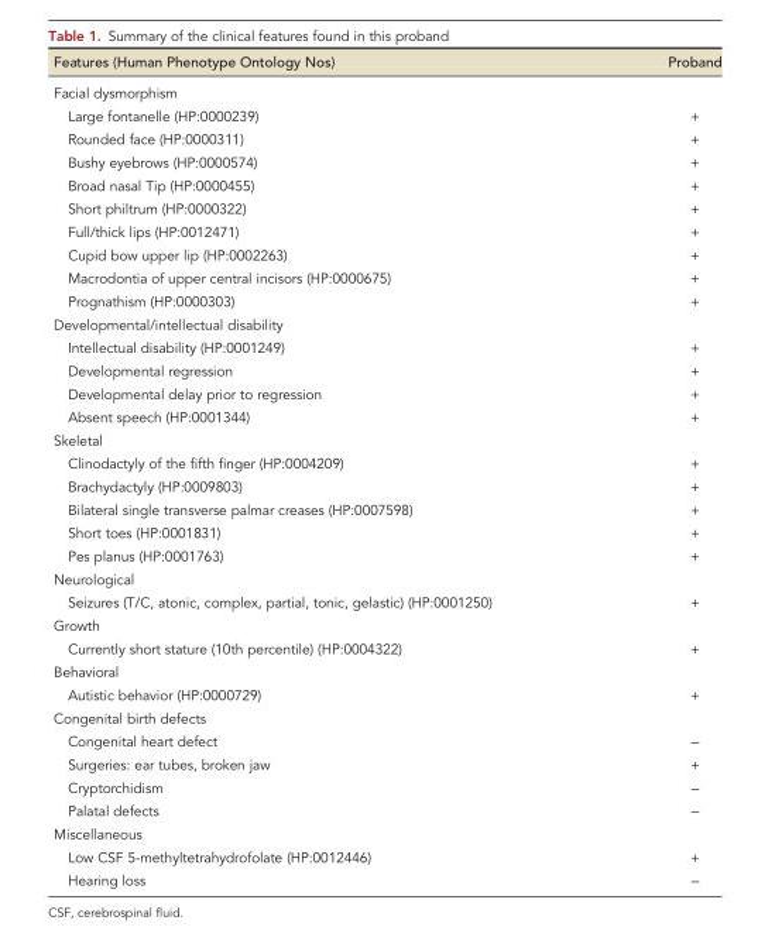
<table><thead><tr><td>Features (Human Phenotype Ontology Nos)</td><td>Proband</td></tr></thead><tbody><tr><td colspan="2">Facial dysmorphism</td></tr><tr><td>Large fontanelle (HP:0000239)</td><td>+</td></tr><tr><td>Rounded face (HP:0000311)</td><td>+</td></tr><tr><td>Bushy eyebrows (HP:0000574)</td><td>+</td></tr><tr><td>Broad nasal Tip (HP:0000455)</td><td>+</td></tr><tr><td>Short philtrum (HP:0000322)</td><td>+</td></tr><tr><td>Full/thick lips (HP:0012471)</td><td>+</td></tr><tr><td>Cupid bow upper lip (HP:0002263)</td><td>+</td></tr><tr><td>Macrodontia of upper central incisors (HP:0000675)</td><td>+</td></tr><tr><td>Prognathism (HP:0000303)</td><td>+</td></tr><tr><td colspan="2">Developmental/intellectual disability</td></tr><tr><td>Intellectual disability (HP:0001249)</td><td>+</td></tr><tr><td>Developmental regression</td><td>+</td></tr><tr><td>Developmental delay prior to regression</td><td>+</td></tr><tr><td>Absent speech (HP:0001344)</td><td>+</td></tr><tr><td colspan="2">Skeletal</td></tr><tr><td>Clinodactyly of the fifth finger (HP:0004209)</td><td>+</td></tr><tr><td>Brachydactyly (HP:0009803)</td><td>+</td></tr><tr><td>Bilateral single transverse palmar creases (HP:0007598)</td><td>+</td></tr><tr><td>Short toes (HP:0001831)</td><td>+</td></tr><tr><td>Pes planus (HP:0001763)</td><td>+</td></tr><tr><td colspan="2">Neurological</td></tr><tr><td>Seizures (T/C, atonic, complex, partial, tonic, gelastic) (HP:0001250)</td><td>+</td></tr><tr><td colspan="2">Growth</td></tr><tr><td>Currently short stature (10th percentile) (HP:0004322)</td><td>+</td></tr><tr><td colspan="2">Behavioral</td></tr><tr><td>Autistic behavior (HP:0000729)</td><td>+</td></tr><tr><td colspan="2">Congenital birth defects</td></tr><tr><td>Congenital heart defect</td><td>−</td></tr><tr><td>Surgeries: ear tubes, broken jaw</td><td>+</td></tr><tr><td>Cryptorchidism</td><td>−</td></tr><tr><td>Palatal defects</td><td>−</td></tr><tr><td colspan="2">Miscellaneous</td></tr><tr><td>Low CSF 5-methyltetrahydrofolate (HP:0012446)</td><td>+</td></tr><tr><td>Hearing loss</td><td>−</td></tr></tbody></table>